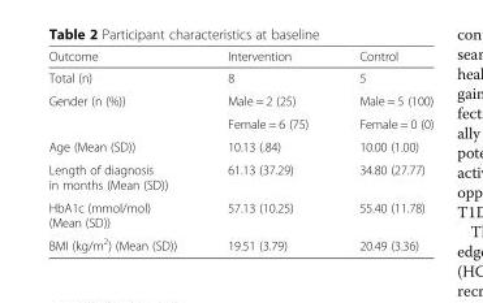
<table><thead><tr><td>Outcome</td><td>Intervention</td><td>Control</td></tr></thead><tbody><tr><td>Total (n)</td><td>8</td><td>5</td></tr><tr><td rowspan="2">Gender (n (%))</td><td>Male = 2 (25)</td><td>Male = 5 (100)</td></tr><tr><td>Female = 6 (75)</td><td>Female = 0 (0)</td></tr><tr><td>Age (Mean (SD))</td><td>10.13 (.84)</td><td>10.00 (1.00)</td></tr><tr><td>Length of diagnosis in months (Mean (SD))</td><td>61.13 (37.29)</td><td>34.80 (27.77)</td></tr><tr><td>HbA1c (mmol/mol) (Mean (SD))</td><td>57.13 (10.25)</td><td>55.40 (11.78)</td></tr><tr><td>BMI (kg/m<sup>2</sup>) (Mean (SD))</td><td>19.51 (3.79)</td><td>20.49 (3.36)</td></tr></tbody></table>